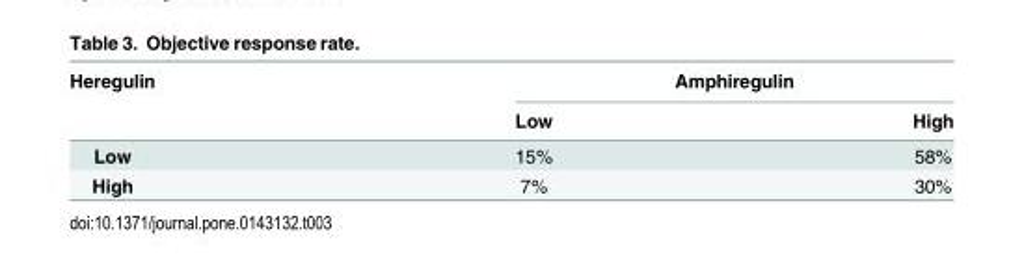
<table><thead><tr><td rowspan="2">Heregulin</td><td colspan="2">Amphiregulin</td></tr><tr><td>Low</td><td>High</td></tr></thead><tbody><tr><td>Low</td><td>15%</td><td>58%</td></tr><tr><td>High</td><td>7%</td><td>30%</td></tr></tbody></table>